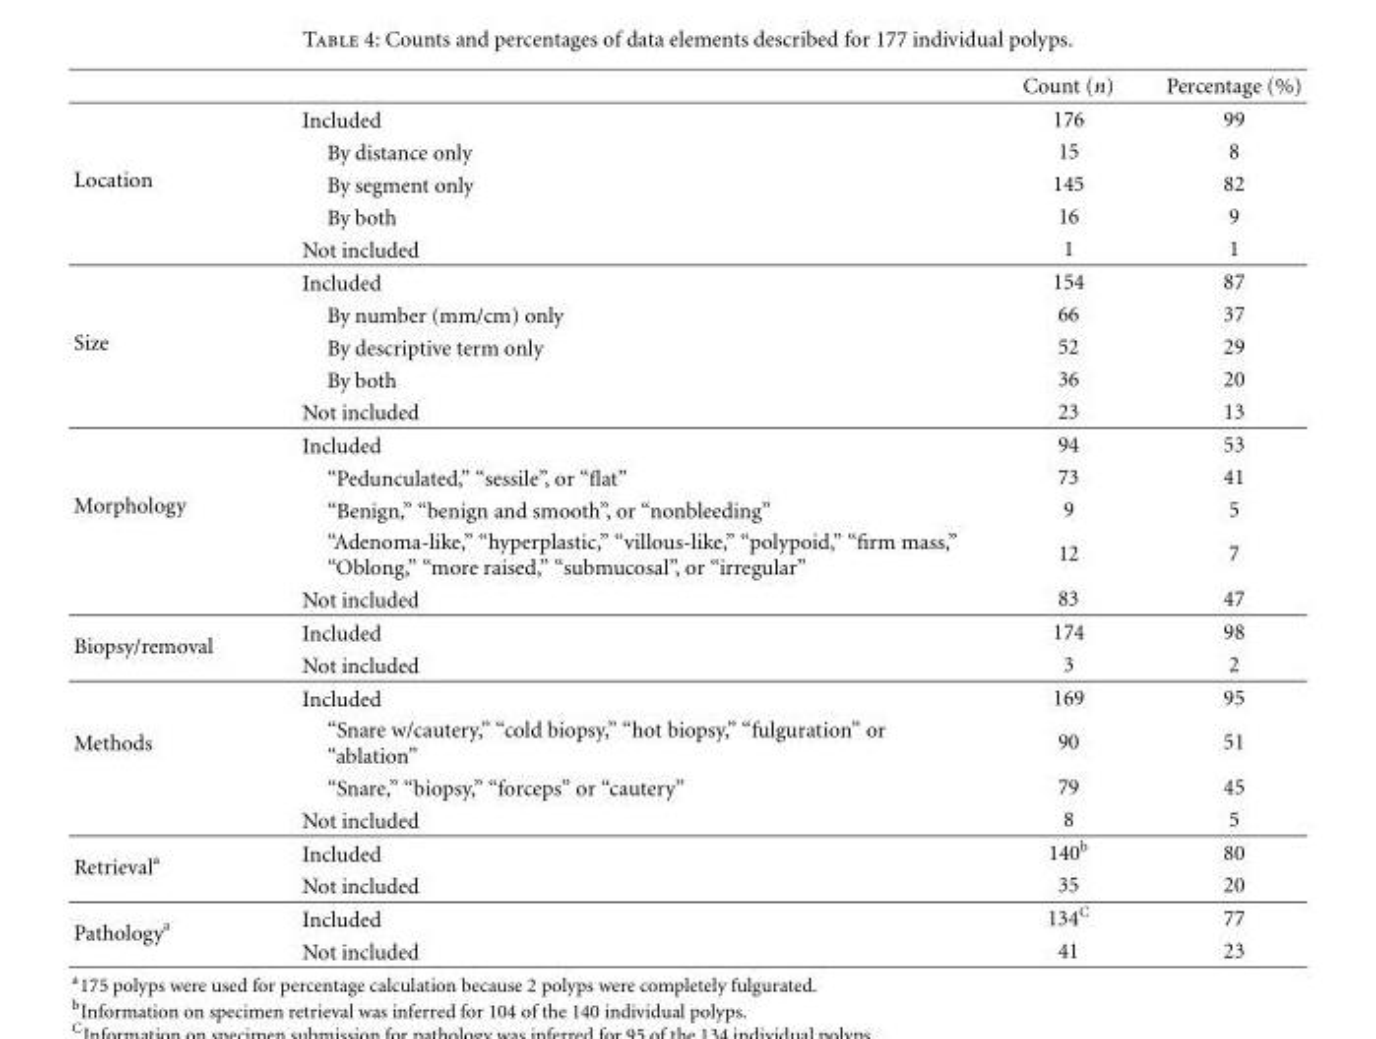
<table><thead><tr><td></td><td></td><td>Count (n)</td><td>Percentage (%)</td></tr></thead><tbody><tr><td rowspan="5">Location</td><td>Included</td><td>176</td><td>99</td></tr><tr><td>By distance only</td><td>15</td><td>8</td></tr><tr><td>By segment only</td><td>145</td><td>82</td></tr><tr><td>By both</td><td>16</td><td>9</td></tr><tr><td>Not included</td><td>1</td><td>1</td></tr><tr><td rowspan="5">Size</td><td>Included</td><td>154</td><td>87</td></tr><tr><td>By number (mm/cm) only</td><td>66</td><td>37</td></tr><tr><td>By descriptive term only</td><td>52</td><td>29</td></tr><tr><td>By both</td><td>36</td><td>20</td></tr><tr><td>Not included</td><td>23</td><td>13</td></tr><tr><td rowspan="5">Morphology</td><td>Included</td><td>94</td><td>53</td></tr><tr><td>“Pedunculated,” “sessile”, or “flat”</td><td>73</td><td>41</td></tr><tr><td>“Benign,” “benign and smooth”, or “nonbleeding”</td><td>9</td><td>5</td></tr><tr><td>“Adenoma-like,” “hyperplastic,” “villous-like,” “polypoid,” “firm mass,” “Oblong,” “more raised,” “submucosal”, or “irregular”</td><td>12</td><td>7</td></tr><tr><td>Not included</td><td>83</td><td>47</td></tr><tr><td rowspan="2">Biopsy/removal</td><td>Included</td><td>174</td><td>98</td></tr><tr><td>Not included</td><td>3</td><td>2</td></tr><tr><td rowspan="4">Methods</td><td>Included</td><td>169</td><td>95</td></tr><tr><td>“Snare w/cautery,” “cold biopsy,” “hot biopsy,” “fulguration” or “ablation”</td><td>90</td><td>51</td></tr><tr><td>“Snare,” “biopsy,” “forceps” or “cautery”</td><td>79</td><td>45</td></tr><tr><td>Not included</td><td>8</td><td>5</td></tr><tr><td rowspan="2">Retrieval<sup>a</sup></td><td>Included</td><td>140<sup>b</sup></td><td>80</td></tr><tr><td>Not included</td><td>35</td><td>20</td></tr><tr><td rowspan="2">Pathology<sup>a</sup></td><td>Included</td><td>134<sup>C</sup></td><td>77</td></tr><tr><td>Not included</td><td>41</td><td>23</td></tr></tbody></table>